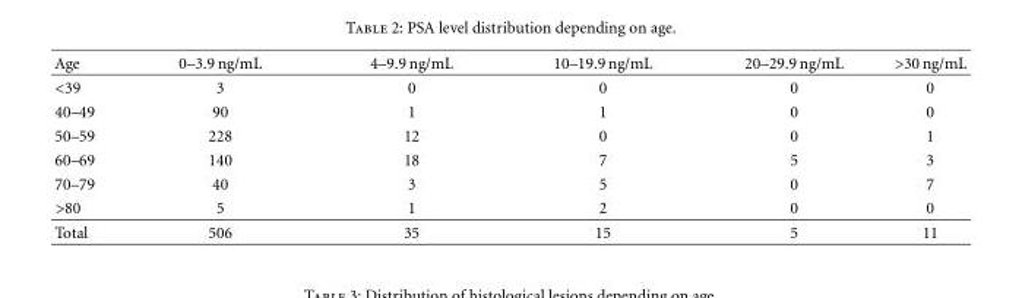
<table><thead><tr><td>Age</td><td>0–3.9 ng/mL</td><td>4–9.9 ng/mL</td><td>10–19.9 ng/mL</td><td>20–29.9 ng/mL</td><td>&gt;30 ng/mL</td></tr></thead><tbody><tr><td>&lt;39</td><td>3</td><td>0</td><td>0</td><td>0</td><td>0</td></tr><tr><td>40–49</td><td>90</td><td>1</td><td>1</td><td>0</td><td>0</td></tr><tr><td>50–59</td><td>228</td><td>12</td><td>0</td><td>0</td><td>1</td></tr><tr><td>60–69</td><td>140</td><td>18</td><td>7</td><td>5</td><td>3</td></tr><tr><td>70–79</td><td>40</td><td>3</td><td>5</td><td>0</td><td>7</td></tr><tr><td>&gt;80</td><td>5</td><td>1</td><td>2</td><td>0</td><td>0</td></tr><tr><td>Total</td><td>506</td><td>35</td><td>15</td><td>5</td><td>11</td></tr></tbody></table>